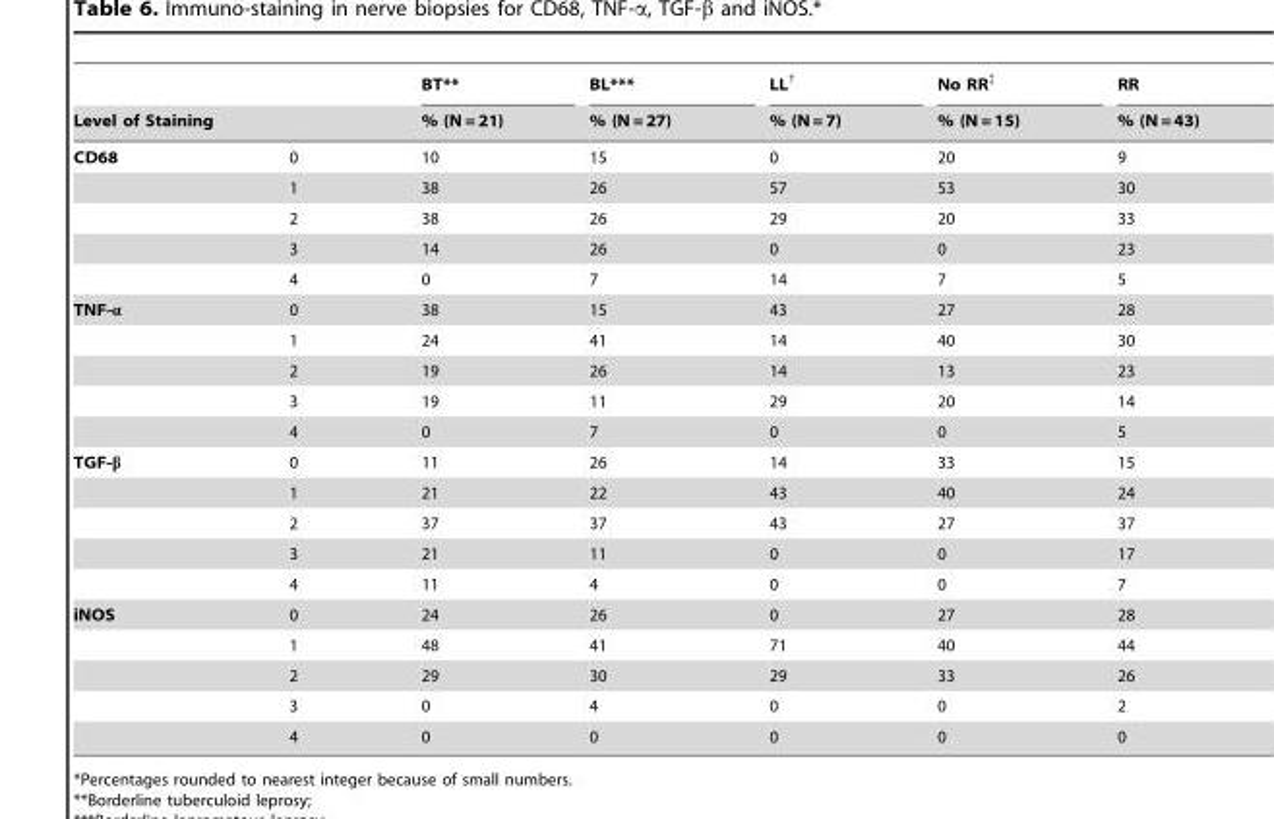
<table><thead><tr><td></td><td></td><td rowspan="2">BT** % (N = 21)</td><td rowspan="2">BL*** % (N = 27)</td><td rowspan="2">LL† % (N = 7)</td><td rowspan="2">No RR‡ % (N = 15)</td><td rowspan="2">RR % (N = 43)</td></tr><tr><td colspan="2">Level of Staining</td></tr></thead><tbody><tr><td rowspan="5">CD68</td><td>0</td><td>10</td><td>15</td><td>0</td><td>20</td><td>9</td></tr><tr><td>1</td><td>38</td><td>26</td><td>57</td><td>53</td><td>30</td></tr><tr><td>2</td><td>38</td><td>26</td><td>29</td><td>20</td><td>33</td></tr><tr><td>3</td><td>14</td><td>26</td><td>0</td><td>0</td><td>23</td></tr><tr><td>4</td><td>0</td><td>7</td><td>14</td><td>7</td><td>5</td></tr><tr><td rowspan="5">TNF-α</td><td>0</td><td>38</td><td>15</td><td>43</td><td>27</td><td>28</td></tr><tr><td>1</td><td>24</td><td>41</td><td>14</td><td>40</td><td>30</td></tr><tr><td>2</td><td>19</td><td>26</td><td>14</td><td>13</td><td>23</td></tr><tr><td>3</td><td>19</td><td>11</td><td>29</td><td>20</td><td>14</td></tr><tr><td>4</td><td>0</td><td>7</td><td>0</td><td>0</td><td>5</td></tr><tr><td rowspan="5">TGF-β</td><td>0</td><td>11</td><td>26</td><td>14</td><td>33</td><td>15</td></tr><tr><td>1</td><td>21</td><td>22</td><td>43</td><td>40</td><td>24</td></tr><tr><td>2</td><td>37</td><td>37</td><td>43</td><td>27</td><td>37</td></tr><tr><td>3</td><td>21</td><td>11</td><td>0</td><td>0</td><td>17</td></tr><tr><td>4</td><td>11</td><td>4</td><td>0</td><td>0</td><td>7</td></tr><tr><td rowspan="5">iNOS</td><td>0</td><td>24</td><td>26</td><td>0</td><td>27</td><td>28</td></tr><tr><td>1</td><td>48</td><td>41</td><td>71</td><td>40</td><td>44</td></tr><tr><td>2</td><td>29</td><td>30</td><td>29</td><td>33</td><td>26</td></tr><tr><td>3</td><td>0</td><td>4</td><td>0</td><td>0</td><td>2</td></tr><tr><td>4</td><td>0</td><td>0</td><td>0</td><td>0</td><td>0</td></tr></tbody></table>